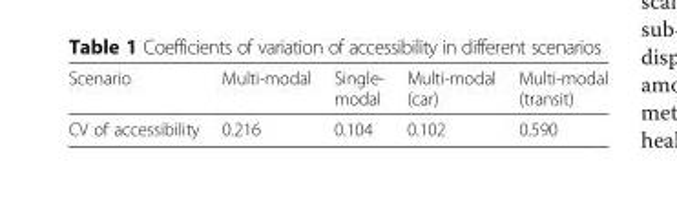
<table><thead><tr><td>Scenario</td><td>Multi-modal</td><td>Single- modal</td><td>Multi-modal (car)</td><td>Multi-modal (transit)</td></tr></thead><tbody><tr><td>CV of accessibility</td><td>0.216</td><td>0.104</td><td>0.102</td><td>0.590</td></tr></tbody></table>